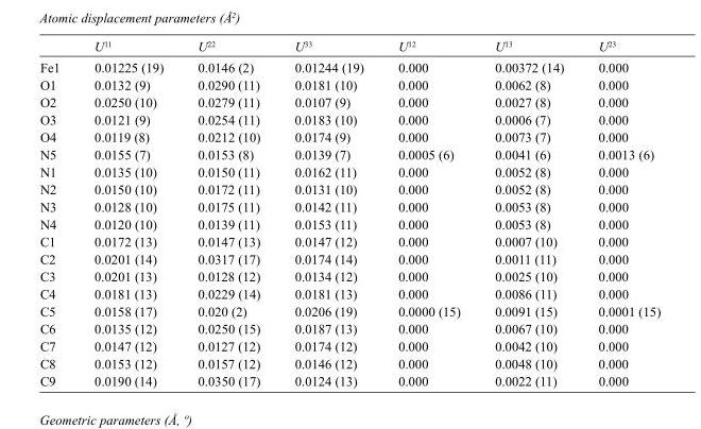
<table><thead><tr><td></td><td>U<sup>11</sup></td><td>U<sup>22</sup></td><td>U<sup>33</sup></td><td>U<sup>12</sup></td><td>U<sup>13</sup></td><td>U<sup>23</sup></td></tr></thead><tbody><tr><td>Fe1</td><td>0.01225 (19)</td><td>0.0146 (2)</td><td>0.01244 (19)</td><td>0.000</td><td>0.00372 (14)</td><td>0.000</td></tr><tr><td>O1</td><td>0.0132 (9)</td><td>0.0290 (11)</td><td>0.0181 (10)</td><td>0.000</td><td>0.0062 (8)</td><td>0.000</td></tr><tr><td>O2</td><td>0.0250 (10)</td><td>0.0279 (11)</td><td>0.0107 (9)</td><td>0.000</td><td>0.0027 (8)</td><td>0.000</td></tr><tr><td>O3</td><td>0.0121 (9)</td><td>0.0254 (11)</td><td>0.0183 (10)</td><td>0.000</td><td>0.0006 (7)</td><td>0.000</td></tr><tr><td>O4</td><td>0.0119 (8)</td><td>0.0212 (10)</td><td>0.0174 (9)</td><td>0.000</td><td>0.0073 (7)</td><td>0.000</td></tr><tr><td>N5</td><td>0.0155 (7)</td><td>0.0153 (8)</td><td>0.0139 (7)</td><td>0.0005 (6)</td><td>0.0041 (6)</td><td>0.0013 (6)</td></tr><tr><td>N1</td><td>0.0135 (10)</td><td>0.0150 (11)</td><td>0.0162 (11)</td><td>0.000</td><td>0.0052 (8)</td><td>0.000</td></tr><tr><td>N2</td><td>0.0150 (10)</td><td>0.0172 (11)</td><td>0.0131 (10)</td><td>0.000</td><td>0.0052 (8)</td><td>0.000</td></tr><tr><td>N3</td><td>0.0128 (10)</td><td>0.0175 (11)</td><td>0.0142 (11)</td><td>0.000</td><td>0.0053 (8)</td><td>0.000</td></tr><tr><td>N4</td><td>0.0120 (10)</td><td>0.0139 (11)</td><td>0.0153 (11)</td><td>0.000</td><td>0.0053 (8)</td><td>0.000</td></tr><tr><td>C1</td><td>0.0172 (13)</td><td>0.0147 (13)</td><td>0.0147 (12)</td><td>0.000</td><td>0.0007 (10)</td><td>0.000</td></tr><tr><td>C2</td><td>0.0201 (14)</td><td>0.0317 (17)</td><td>0.0174 (14)</td><td>0.000</td><td>0.0011 (11)</td><td>0.000</td></tr><tr><td>C3</td><td>0.0201 (13)</td><td>0.0128 (12)</td><td>0.0134 (12)</td><td>0.000</td><td>0.0025 (10)</td><td>0.000</td></tr><tr><td>C4</td><td>0.0181 (13)</td><td>0.0229 (14)</td><td>0.0181 (13)</td><td>0.000</td><td>0.0086 (11)</td><td>0.000</td></tr><tr><td>C5</td><td>0.0158 (17)</td><td>0.020 (2)</td><td>0.0206 (19)</td><td>0.0000 (15)</td><td>0.0091 (15)</td><td>0.0001 (15)</td></tr><tr><td>C6</td><td>0.0135 (12)</td><td>0.0250 (15)</td><td>0.0187 (13)</td><td>0.000</td><td>0.0067 (10)</td><td>0.000</td></tr><tr><td>C7</td><td>0.0147 (12)</td><td>0.0127 (12)</td><td>0.0174 (12)</td><td>0.000</td><td>0.0042 (10)</td><td>0.000</td></tr><tr><td>C8</td><td>0.0153 (12)</td><td>0.0157 (12)</td><td>0.0146 (12)</td><td>0.000</td><td>0.0048 (10)</td><td>0.000</td></tr><tr><td>C9</td><td>0.0190 (14)</td><td>0.0350 (17)</td><td>0.0124 (13)</td><td>0.000</td><td>0.0022 (11)</td><td>0.000</td></tr></tbody></table>